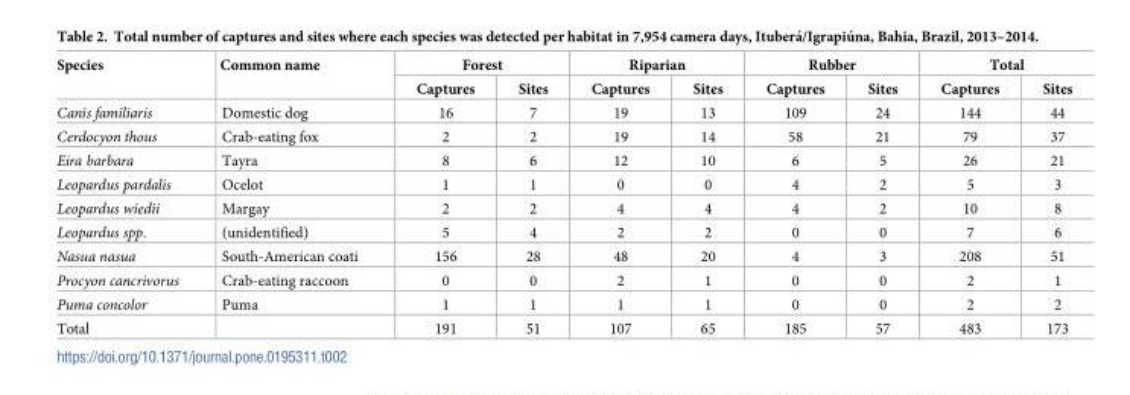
<table><thead><tr><td rowspan="2">Species</td><td rowspan="2">Common name</td><td colspan="2">Forest</td><td colspan="2">Riparian</td><td colspan="2">Rubber</td><td colspan="2">Total</td></tr><tr><td>Captures</td><td>Sites</td><td>Captures</td><td>Sites</td><td>Captures</td><td>Sites</td><td>Captures</td><td>Sites</td></tr></thead><tbody><tr><td>Canis familiaris</td><td>Domestic dog</td><td>16</td><td>7</td><td>19</td><td>13</td><td>109</td><td>24</td><td>144</td><td>44</td></tr><tr><td>Cerdocyon thous</td><td>Crab-eating fox</td><td>2</td><td>2</td><td>19</td><td>14</td><td>58</td><td>21</td><td>79</td><td>37</td></tr><tr><td>Eira barbara</td><td>Tayra</td><td>8</td><td>6</td><td>12</td><td>10</td><td>6</td><td>5</td><td>26</td><td>21</td></tr><tr><td>Leopardus pardalis</td><td>Ocelot</td><td>1</td><td>1</td><td>0</td><td>0</td><td>4</td><td>2</td><td>5</td><td>3</td></tr><tr><td>Leopardus wiedii</td><td>Margay</td><td>2</td><td>2</td><td>4</td><td>4</td><td>4</td><td>2</td><td>10</td><td>8</td></tr><tr><td>Leopardus spp.</td><td>(unidentified)</td><td>5</td><td>4</td><td>2</td><td>2</td><td>0</td><td>0</td><td>7</td><td>6</td></tr><tr><td>Nasua nasua</td><td>South-American coati</td><td>156</td><td>28</td><td>48</td><td>20</td><td>4</td><td>3</td><td>208</td><td>51</td></tr><tr><td>Procyon cancrivorus</td><td>Crab-eating raccoon</td><td>0</td><td>0</td><td>2</td><td>1</td><td>0</td><td>0</td><td>2</td><td>1</td></tr><tr><td>Puma concolor</td><td>Puma</td><td>1</td><td>1</td><td>1</td><td>1</td><td>0</td><td>0</td><td>2</td><td>2</td></tr><tr><td>Total</td><td></td><td>191</td><td>51</td><td>107</td><td>65</td><td>185</td><td>57</td><td>483</td><td>173</td></tr></tbody></table>